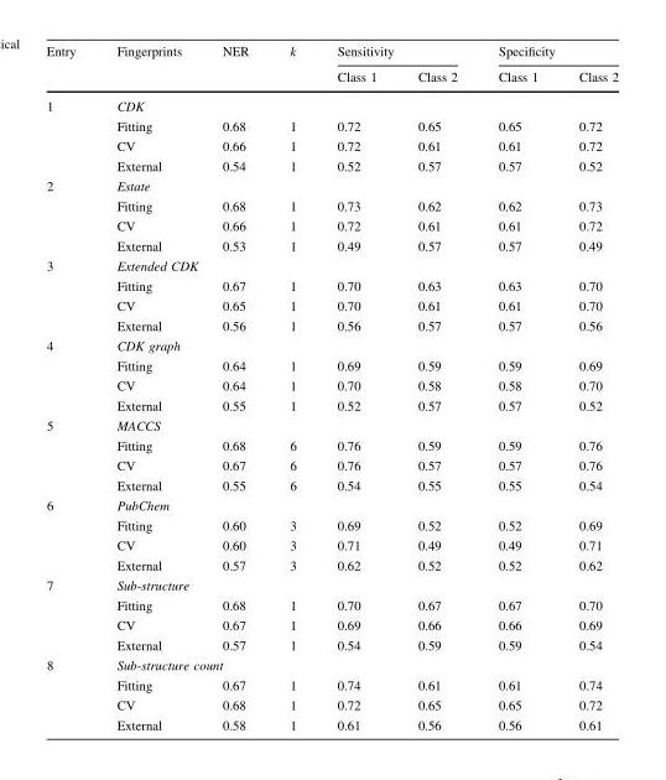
<table><thead><tr><td rowspan="2">Entry</td><td rowspan="2">Fingerprints</td><td rowspan="2">NER</td><td rowspan="2">k</td><td colspan="2">Sensitivity</td><td colspan="2">Specificity</td></tr><tr><td>Class 1</td><td>Class 2</td><td>Class 1</td><td>Class 2</td></tr></thead><tbody><tr><td rowspan="4">1</td><td colspan="7">CDK</td></tr><tr><td>Fitting</td><td>0.68</td><td>1</td><td>0.72</td><td>0.65</td><td>0.65</td><td>0.72</td></tr><tr><td>CV</td><td>0.66</td><td>1</td><td>0.72</td><td>0.61</td><td>0.61</td><td>0.72</td></tr><tr><td>External</td><td>0.54</td><td>1</td><td>0.52</td><td>0.57</td><td>0.57</td><td>0.52</td></tr><tr><td rowspan="4">2</td><td colspan="7">Estate</td></tr><tr><td>Fitting</td><td>0.68</td><td>1</td><td>0.73</td><td>0.62</td><td>0.62</td><td>0.73</td></tr><tr><td>CV</td><td>0.66</td><td>1</td><td>0.72</td><td>0.61</td><td>0.61</td><td>0.72</td></tr><tr><td>External</td><td>0.53</td><td>1</td><td>0.49</td><td>0.57</td><td>0.57</td><td>0.49</td></tr><tr><td rowspan="4">3</td><td colspan="7">Extended CDK</td></tr><tr><td>Fitting</td><td>0.67</td><td>1</td><td>0.70</td><td>0.63</td><td>0.63</td><td>0.70</td></tr><tr><td>CV</td><td>0.65</td><td>1</td><td>0.70</td><td>0.61</td><td>0.61</td><td>0.70</td></tr><tr><td>External</td><td>0.56</td><td>1</td><td>0.56</td><td>0.57</td><td>0.57</td><td>0.56</td></tr><tr><td rowspan="4">4</td><td colspan="7">CDK graph</td></tr><tr><td>Fitting</td><td>0.64</td><td>1</td><td>0.69</td><td>0.59</td><td>0.59</td><td>0.69</td></tr><tr><td>CV</td><td>0.64</td><td>1</td><td>0.70</td><td>0.58</td><td>0.58</td><td>0.70</td></tr><tr><td>External</td><td>0.55</td><td>1</td><td>0.52</td><td>0.57</td><td>0.57</td><td>0.52</td></tr><tr><td rowspan="4">5</td><td colspan="7">MACCS</td></tr><tr><td>Fitting</td><td>0.68</td><td>6</td><td>0.76</td><td>0.59</td><td>0.59</td><td>0.76</td></tr><tr><td>CV</td><td>0.67</td><td>6</td><td>0.76</td><td>0.57</td><td>0.57</td><td>0.76</td></tr><tr><td>External</td><td>0.55</td><td>6</td><td>0.54</td><td>0.55</td><td>0.55</td><td>0.54</td></tr><tr><td rowspan="4">6</td><td colspan="7">PubChem</td></tr><tr><td>Fitting</td><td>0.60</td><td>3</td><td>0.69</td><td>0.52</td><td>0.52</td><td>0.69</td></tr><tr><td>CV</td><td>0.60</td><td>3</td><td>0.71</td><td>0.49</td><td>0.49</td><td>0.71</td></tr><tr><td>External</td><td>0.57</td><td>3</td><td>0.62</td><td>0.52</td><td>0.52</td><td>0.62</td></tr><tr><td rowspan="4">7</td><td colspan="7">Sub-structure</td></tr><tr><td>Fitting</td><td>0.68</td><td>1</td><td>0.70</td><td>0.67</td><td>0.67</td><td>0.70</td></tr><tr><td>CV</td><td>0.67</td><td>1</td><td>0.69</td><td>0.66</td><td>0.66</td><td>0.69</td></tr><tr><td>External</td><td>0.57</td><td>1</td><td>0.54</td><td>0.59</td><td>0.59</td><td>0.54</td></tr><tr><td rowspan="4">8</td><td colspan="7">Sub-structure count</td></tr><tr><td>Fitting</td><td>0.67</td><td>1</td><td>0.74</td><td>0.61</td><td>0.61</td><td>0.74</td></tr><tr><td>CV</td><td>0.68</td><td>1</td><td>0.72</td><td>0.65</td><td>0.65</td><td>0.72</td></tr><tr><td>External</td><td>0.58</td><td>1</td><td>0.61</td><td>0.56</td><td>0.56</td><td>0.61</td></tr></tbody></table>